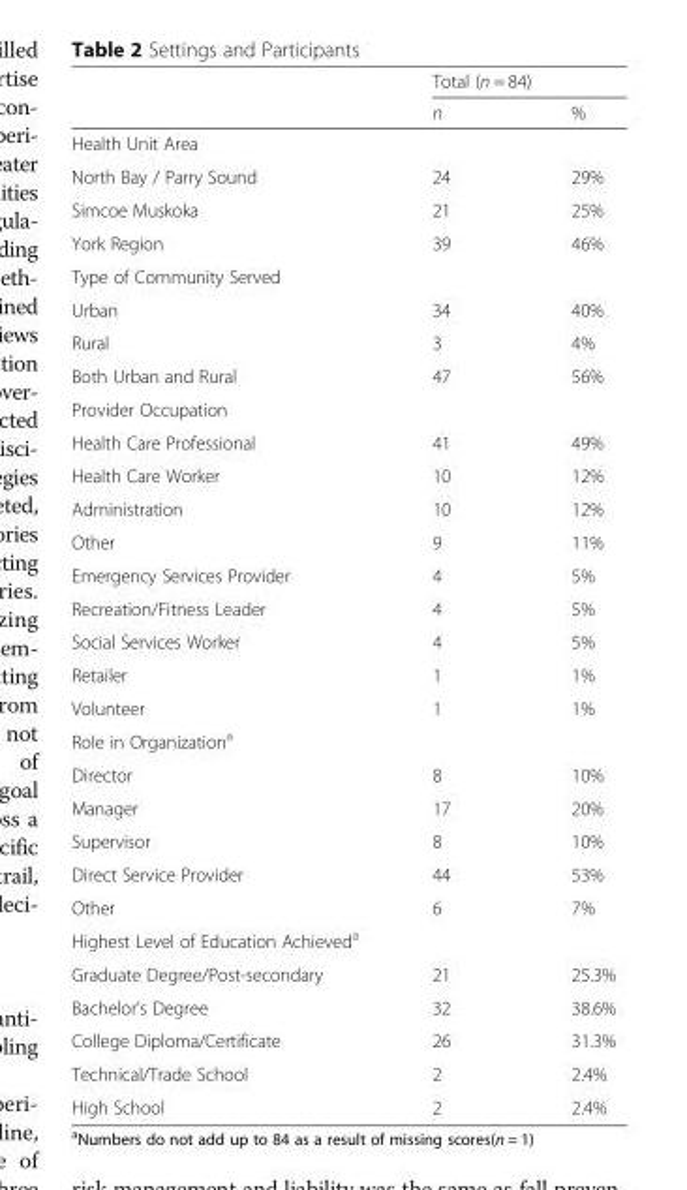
<table><thead><tr><td rowspan="2"></td><td colspan="2">Total (n = 84)</td></tr><tr><td>n</td><td>%</td></tr></thead><tbody><tr><td colspan="3">Health Unit Area</td></tr><tr><td>North Bay / Parry Sound</td><td>24</td><td>29%</td></tr><tr><td>Simcoe Muskoka</td><td>21</td><td>25%</td></tr><tr><td>York Region</td><td>39</td><td>46%</td></tr><tr><td colspan="3">Type of Community Served</td></tr><tr><td>Urban</td><td>34</td><td>40%</td></tr><tr><td>Rural</td><td>3</td><td>4%</td></tr><tr><td>Both Urban and Rural</td><td>47</td><td>56%</td></tr><tr><td colspan="3">Provider Occupation</td></tr><tr><td>Health Care Professional</td><td>41</td><td>49%</td></tr><tr><td>Health Care Worker</td><td>10</td><td>12%</td></tr><tr><td>Administration</td><td>10</td><td>12%</td></tr><tr><td>Other</td><td>9</td><td>11%</td></tr><tr><td>Emergency Services Provider</td><td>4</td><td>5%</td></tr><tr><td>Recreation/Fitness Leader</td><td>4</td><td>5%</td></tr><tr><td>Social Services Worker</td><td>4</td><td>5%</td></tr><tr><td>Retailer</td><td>1</td><td>1%</td></tr><tr><td>Volunteer</td><td>1</td><td>1%</td></tr><tr><td colspan="3">Role in Organization<sup>a</sup></td></tr><tr><td>Director</td><td>8</td><td>10%</td></tr><tr><td>Manager</td><td>17</td><td>20%</td></tr><tr><td>Supervisor</td><td>8</td><td>10%</td></tr><tr><td>Direct Service Provider</td><td>44</td><td>53%</td></tr><tr><td>Other</td><td>6</td><td>7%</td></tr><tr><td colspan="3">Highest Level of Education Achieved<sup>a</sup></td></tr><tr><td>Graduate Degree/Post-secondary</td><td>21</td><td>25.3%</td></tr><tr><td>Bachelor’s Degree</td><td>32</td><td>38.6%</td></tr><tr><td>College Diploma/Certificate</td><td>26</td><td>31.3%</td></tr><tr><td>Technical/Trade School</td><td>2</td><td>2.4%</td></tr><tr><td>High School</td><td>2</td><td>2.4%</td></tr></tbody></table>